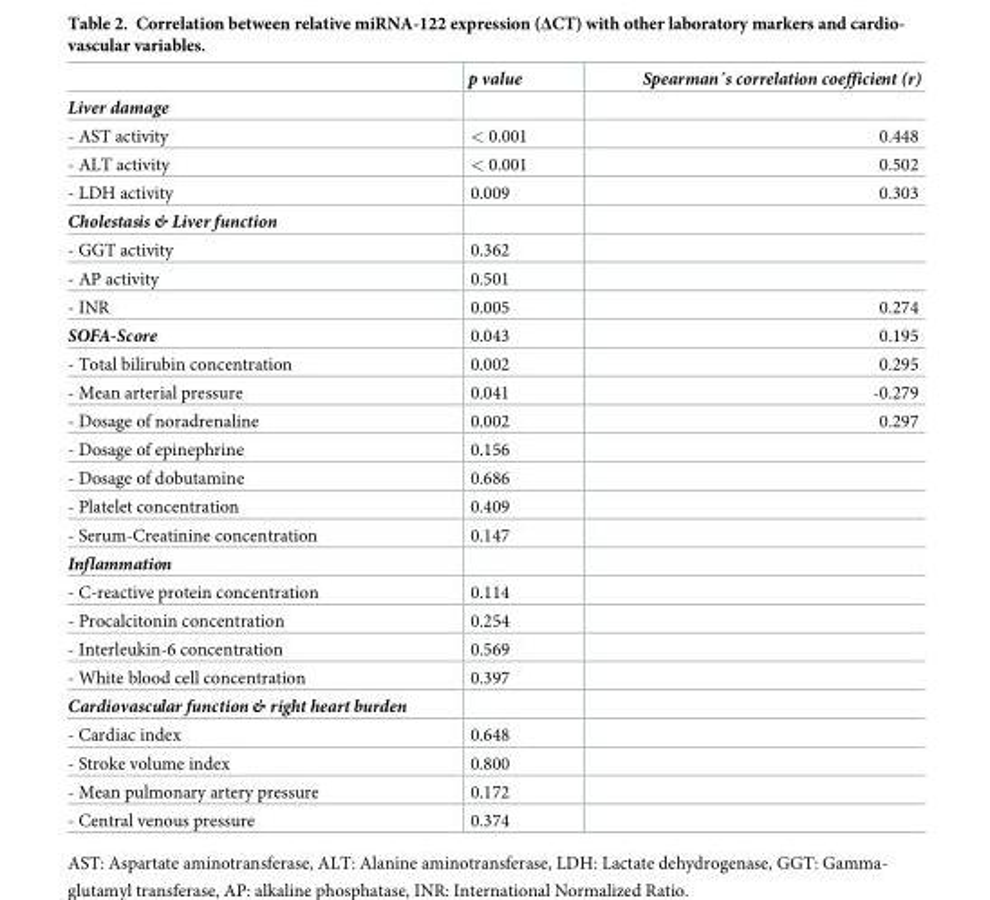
<table><thead><tr><td></td><td>p value</td><td>Spearman´s correlation coefficient (r)</td></tr></thead><tbody><tr><td colspan="3">Liver damage</td></tr><tr><td>- AST activity</td><td>&lt; 0.001</td><td>0.448</td></tr><tr><td>- ALT activity</td><td>&lt; 0.001</td><td>0.502</td></tr><tr><td>- LDH activity</td><td>0.009</td><td>0.303</td></tr><tr><td colspan="3">Cholestasis &amp; Liver function</td></tr><tr><td>- GGT activity</td><td>0.362</td><td></td></tr><tr><td>- AP activity</td><td>0.501</td><td></td></tr><tr><td>- INR</td><td>0.005</td><td>0.274</td></tr><tr><td>SOFA-Score</td><td>0.043</td><td>0.195</td></tr><tr><td>- Total bilirubin concentration</td><td>0.002</td><td>0.295</td></tr><tr><td>- Mean arterial pressure</td><td>0.041</td><td>-0.279</td></tr><tr><td>- Dosage of noradrenaline</td><td>0.002</td><td>0.297</td></tr><tr><td>- Dosage of epinephrine</td><td>0.156</td><td></td></tr><tr><td>- Dosage of dobutamine</td><td>0.686</td><td></td></tr><tr><td>- Platelet concentration</td><td>0.409</td><td></td></tr><tr><td>- Serum-Creatinine concentration</td><td>0.147</td><td></td></tr><tr><td colspan="3">Inflammation</td></tr><tr><td>- C-reactive protein concentration</td><td>0.114</td><td></td></tr><tr><td>- Procalcitonin concentration</td><td>0.254</td><td></td></tr><tr><td>- Interleukin-6 concentration</td><td>0.569</td><td></td></tr><tr><td>- White blood cell concentration</td><td>0.397</td><td></td></tr><tr><td colspan="3">Cardiovascular function &amp; right heart burden</td></tr><tr><td>- Cardiac index</td><td>0.648</td><td></td></tr><tr><td>- Stroke volume index</td><td>0.800</td><td></td></tr><tr><td>- Mean pulmonary artery pressure</td><td>0.172</td><td></td></tr><tr><td>- Central venous pressure</td><td>0.374</td><td></td></tr></tbody></table>